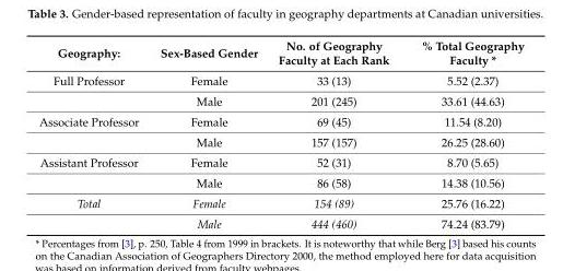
<table><thead><tr><td>Geography:</td><td>Sex-Based Gender</td><td>No. of Geography Faculty at Each Rank</td><td>% Total Geography Faculty *</td></tr></thead><tbody><tr><td rowspan="2">Full Professor</td><td>Female</td><td>33 (13)</td><td>5.52 (2.37)</td></tr><tr><td>Male</td><td>201 (245)</td><td>33.61 (44.63)</td></tr><tr><td rowspan="2">Associate Professor</td><td>Female</td><td>69 (45)</td><td>11.54 (8.20)</td></tr><tr><td>Male</td><td>157 (157)</td><td>26.25 (28.60)</td></tr><tr><td rowspan="2">Assistant Professor</td><td>Female</td><td>52 (31)</td><td>8.70 (5.65)</td></tr><tr><td>Male</td><td>86 (58)</td><td>14.38 (10.56)</td></tr><tr><td rowspan="2">Total</td><td>Female</td><td>154 (89)</td><td>25.76 (16.22)</td></tr><tr><td>Male</td><td>444 (460)</td><td>74.24 (83.79)</td></tr></tbody></table>